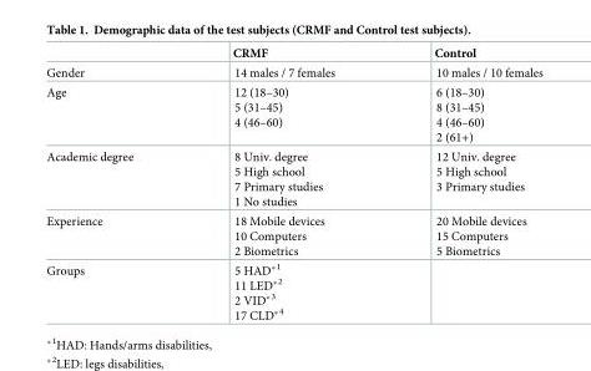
<table><thead><tr><td></td><td>CRMF</td><td>Control</td></tr></thead><tbody><tr><td>Gender</td><td>14 males / 7 females</td><td>10 males / 10 females</td></tr><tr><td>Age</td><td>12 (18–30) 5 (31–45) 4 (46–60)</td><td>6 (18–30) 8 (31–45) 4 (46–60) 2 (61+)</td></tr><tr><td>Academic degree</td><td>8 Univ. degree 5 High school 7 Primary studies 1 No studies</td><td>12 Univ. degree 5 High school 3 Primary studies</td></tr><tr><td>Experience</td><td>18 Mobile devices 10 Computers 2 Biometrics</td><td>20 Mobile devices 15 Computers 5 Biometrics</td></tr><tr><td>Groups</td><td>5 HAD*<sup>1</sup> 11 LED*<sup>2</sup> 2 VID*<sup>3</sup> 17 CLD*<sup>4</sup></td><td></td></tr></tbody></table>